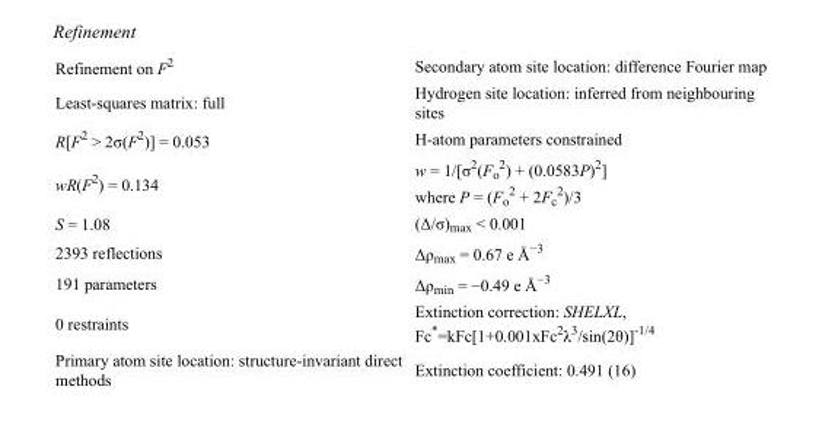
<table><tbody><tr><td>Refinement on F<sup>2</sup></td><td>Secondary atom site location: difference Fourier map</td></tr><tr><td>Least-squares matrix: full</td><td>Hydrogen site location: inferred from neighbouring sites</td></tr><tr><td>R[F<sup>2</sup> &gt; 2σ(F<sup>2</sup>)] = 0.053</td><td>H-atom parameters constrained</td></tr><tr><td>wR(F<sup>2</sup>) = 0.134</td><td>w = 1/[σ<sup>2</sup>(F<sub>o</sub> <sup>2</sup>) + (0.0583P)<sup>2</sup>] where P = (F<sub>o</sub> <sup>2</sup> + 2F<sub>c</sub> <sup>2</sup>)/3</td></tr><tr><td>S = 1.08</td><td>(Δ/σ)<sub>max</sub> &lt; 0.001</td></tr><tr><td>2393 reflections</td><td>Δρ<sub>max</sub> = 0.67 e Å<sup>−3</sup></td></tr><tr><td>191 parameters</td><td>Δρ<sub>min</sub> = −0.49 e Å<sup>−3</sup></td></tr><tr><td>0 restraints</td><td>Extinction correction: SHELXL, Fc*=kFc[1+0.001xFc<sup>2</sup>λ<sup>3</sup>/sin(2θ)]<sup>-1/4</sup></td></tr><tr><td>Primary atom site location: structure-invariant direct methods</td><td>Extinction coefficient: 0.491 (16)</td></tr></tbody></table>